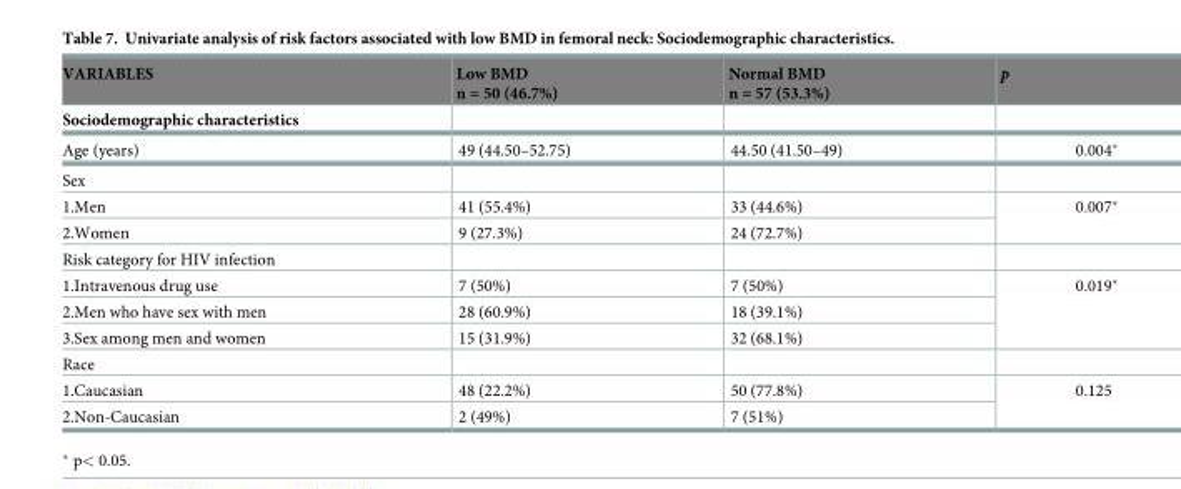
<table><thead><tr><td rowspan="2">VARIABLES Sociodemographic characteristics</td><td rowspan="2">Low BMD n = 50 (46.7%)</td><td rowspan="2">Normal BMD n = 57 (53.3%)</td><td rowspan="2">p</td></tr><tr></tr></thead><tbody><tr><td>Age (years)</td><td>49 (44.50–52.75)</td><td>44.50 (41.50–49)</td><td>0.004*</td></tr><tr><td colspan="4">Sex</td></tr><tr><td>1.Men</td><td>41 (55.4%)</td><td>33 (44.6%)</td><td rowspan="2">0.007*</td></tr><tr><td>2.Women</td><td>9 (27.3%)</td><td>24 (72.7%)</td></tr><tr><td colspan="4">Risk category for HIV infection</td></tr><tr><td>1.Intravenous drug use</td><td>7 (50%)</td><td>7 (50%)</td><td rowspan="3">0.019*</td></tr><tr><td>2.Men who have sex with men</td><td>28 (60.9%)</td><td>18 (39.1%)</td></tr><tr><td>3.Sex among men and women</td><td>15 (31.9%)</td><td>32 (68.1%)</td></tr><tr><td colspan="4">Race</td></tr><tr><td>1.Caucasian</td><td>48 (22.2%)</td><td>50 (77.8%)</td><td rowspan="2">0.125</td></tr><tr><td>2.Non-Caucasian</td><td>2 (49%)</td><td>7 (51%)</td></tr></tbody></table>